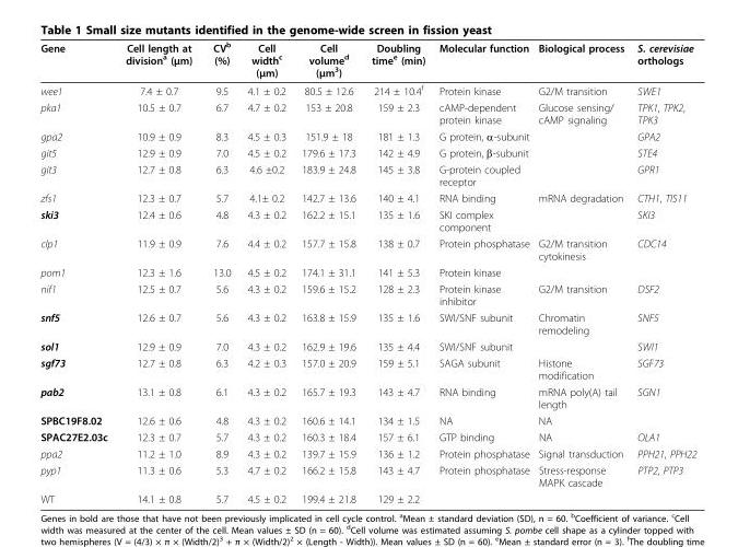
<table><thead><tr><td>Gene</td><td>Cell length at division<sup>a</sup> (μm)</td><td>CV<sup>b</sup> (%)</td><td>Cell width<sup>c</sup> (μm)</td><td>Cell volume<sup>d</sup> (μm<sup>3</sup>)</td><td>Doubling time<sup>e</sup> (min)</td><td>Molecular function</td><td>Biological process</td><td>S. cerevisiae orthologs</td></tr></thead><tbody><tr><td>wee1</td><td>7.4 ± 0.7</td><td>9.5</td><td>4.1 ± 0.2</td><td>80.5 ± 12.6</td><td>214 ± 10.4<sup>f</sup></td><td>Protein kinase</td><td>G2/M transition</td><td>SWE1</td></tr><tr><td>pka1</td><td>10.5 ± 0.7</td><td>6.7</td><td>4.7 ± 0.2</td><td>153 ± 20.8</td><td>159 ± 2.3</td><td>cAMP-dependent protein kinase</td><td>Glucose sensing/ cAMP signaling</td><td>TPK1, TPK2, TPK3</td></tr><tr><td>gpa2</td><td>10.9 ± 0.9</td><td>8.3</td><td>4.5 ± 0.3</td><td>151.9 ± 18</td><td>181 ± 1.3</td><td>G protein, α-subunit</td><td></td><td>GPA2</td></tr><tr><td>git5</td><td>12.9 ± 0.9</td><td>7.0</td><td>4.5 ± 0.2</td><td>179.6 ± 17.3</td><td>142 ± 4.9</td><td>G protein, β-subunit</td><td></td><td>STE4</td></tr><tr><td>git3</td><td>12.7 ± 0.8</td><td>6.3</td><td>4.6 ±0.2</td><td>183.9 ± 24.8</td><td>145 ± 3.8</td><td>G-protein coupled receptor</td><td></td><td>GPR1</td></tr><tr><td>zfs1</td><td>12.3 ± 0.7</td><td>5.7</td><td>4.1± 0.2</td><td>142.7 ± 13.6</td><td>140 ± 4.1</td><td>RNA binding</td><td>mRNA degradation</td><td>CTH1, TIS11</td></tr><tr><td>ski3</td><td>12.4 ± 0.6</td><td>4.8</td><td>4.3 ± 0.2</td><td>162.2 ± 15.1</td><td>135 ± 1.6</td><td>SKI complex component</td><td></td><td>SKI3</td></tr><tr><td>clp1</td><td>11.9 ± 0.9</td><td>7.6</td><td>4.4 ± 0.2</td><td>157.7 ± 15.8</td><td>138 ± 0.7</td><td>Protein phosphatase</td><td>G2/M transition cytokinesis</td><td>CDC14</td></tr><tr><td>pom1</td><td>12.3 ± 1.6</td><td>13.0</td><td>4.5 ± 0.2</td><td>174.1 ± 31.1</td><td>141 ± 5.3</td><td>Protein kinase</td><td></td><td></td></tr><tr><td>nif1</td><td>12.5 ± 0.7</td><td>5.6</td><td>4.3 ± 0.2</td><td>159.6 ± 15.2</td><td>128 ± 2.3</td><td>Protein kinase inhibitor</td><td>G2/M transition</td><td>DSF2</td></tr><tr><td>snf5</td><td>12.6 ± 0.7</td><td>5.6</td><td>4.3 ± 0.2</td><td>163.8 ± 15.9</td><td>135 ± 1.6</td><td>SWI/SNF subunit</td><td>Chromatin remodeling</td><td>SNF5</td></tr><tr><td>sol1</td><td>12.9 ± 0.9</td><td>7.0</td><td>4.3 ± 0.2</td><td>162.9 ± 19.6</td><td>135 ± 4.4</td><td>SWI/SNF subunit</td><td></td><td>SWI1</td></tr><tr><td>sgf73</td><td>12.7 ± 0.8</td><td>6.3</td><td>4.2 ± 0.3</td><td>157.0 ± 20.9</td><td>159 ± 5.1</td><td>SAGA subunit</td><td>Histone modification</td><td>SGF73</td></tr><tr><td>pab2</td><td>13.1 ± 0.8</td><td>6.1</td><td>4.3 ± 0.2</td><td>165.7 ± 19.3</td><td>143 ± 4.7</td><td>RNA binding</td><td>mRNA poly(A) tail length</td><td>SGN1</td></tr><tr><td>SPBC19F8.02</td><td>12.6 ± 0.6</td><td>4.8</td><td>4.3 ± 0.2</td><td>160.6 ± 14.1</td><td>134 ± 1.5</td><td>NA</td><td>NA</td><td></td></tr><tr><td>SPAC27E2.03c</td><td>12.3 ± 0.7</td><td>5.7</td><td>4.3 ± 0.2</td><td>160.3 ± 18.4</td><td>157 ± 6.1</td><td>GTP binding</td><td>NA</td><td>OLA1</td></tr><tr><td>ppa2</td><td>11.2 ± 1.0</td><td>8.9</td><td>4.3 ± 0.2</td><td>139.7 ± 15.9</td><td>136 ± 1.2</td><td>Protein phosphatase</td><td>Signal transduction</td><td>PPH21, PPH22</td></tr><tr><td>pyp1</td><td>11.3 ± 0.6</td><td>5.3</td><td>4.7 ± 0.2</td><td>166.2 ± 15.8</td><td>143 ± 4.7</td><td>Protein phosphatase</td><td>Stress-response MAPK cascade</td><td>PTP2, PTP3</td></tr><tr><td>WT</td><td>14.1 ± 0.8</td><td>5.7</td><td>4.5 ± 0.2</td><td>199.4 ± 21.8</td><td>129 ± 2.2</td><td></td><td></td><td></td></tr></tbody></table>